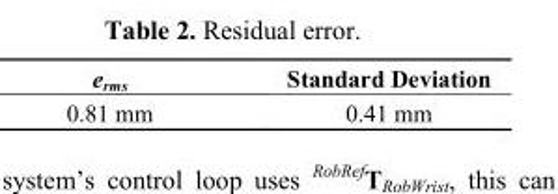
<table><thead><tr><td>e<sub>rms</sub></td><td>Standard Deviation</td></tr></thead><tbody><tr><td>0.81 mm</td><td>0.41 mm</td></tr></tbody></table>